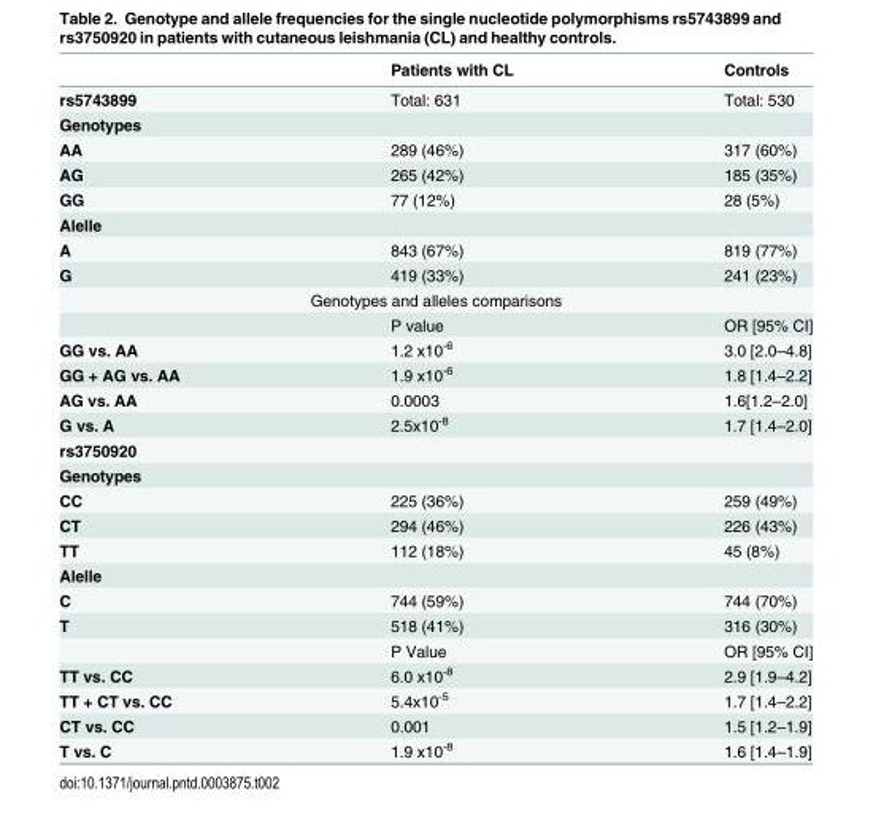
<table><thead><tr><td></td><td>Patients with CL</td><td>Controls</td></tr></thead><tbody><tr><td>rs5743899</td><td>Total: 631</td><td>Total: 530</td></tr><tr><td colspan="3">Genotypes</td></tr><tr><td>AA</td><td>289 (46%)</td><td>317 (60%)</td></tr><tr><td>AG</td><td>265 (42%)</td><td>185 (35%)</td></tr><tr><td>GG</td><td>77 (12%)</td><td>28 (5%)</td></tr><tr><td colspan="3">Alelle</td></tr><tr><td>A</td><td>843 (67%)</td><td>819 (77%)</td></tr><tr><td>G</td><td>419 (33%)</td><td>241 (23%)</td></tr><tr><td colspan="3">Genotypes and alleles comparisons</td></tr><tr><td></td><td>P value</td><td>OR [95% CI]</td></tr><tr><td>GG vs. AA</td><td>1.2 x10<sup>-6</sup></td><td>3.0 [2.0–4.8]</td></tr><tr><td>GG + AG vs. AA</td><td>1.9 x10<sup>-6</sup></td><td>1.8 [1.4–2.2]</td></tr><tr><td>AG vs. AA</td><td>0.0003</td><td>1.6[1.2–2.0]</td></tr><tr><td>G vs. A</td><td>2.5x10<sup>-8</sup></td><td>1.7 [1.4–2.0]</td></tr><tr><td colspan="3">rs3750920</td></tr><tr><td colspan="3">Genotypes</td></tr><tr><td>CC</td><td>225 (36%)</td><td>259 (49%)</td></tr><tr><td>CT</td><td>294 (46%)</td><td>226 (43%)</td></tr><tr><td>TT</td><td>112 (18%)</td><td>45 (8%)</td></tr><tr><td colspan="3">Alelle</td></tr><tr><td>C</td><td>744 (59%)</td><td>744 (70%)</td></tr><tr><td rowspan="2">T</td><td>518 (41%)</td><td>316 (30%)</td></tr><tr><td>P Value</td><td>OR [95% CI]</td></tr><tr><td>TT vs. CC</td><td>6.0 x10<sup>-8</sup></td><td>2.9 [1.9–4.2]</td></tr><tr><td>TT + CT vs. CC</td><td>5.4x10<sup>-5</sup></td><td>1.7 [1.4–2.2]</td></tr><tr><td>CT vs. CC</td><td>0.001</td><td>1.5 [1.2–1.9]</td></tr><tr><td>T vs. C</td><td>1.9 x10<sup>-8</sup></td><td>1.6 [1.4–1.9]</td></tr></tbody></table>